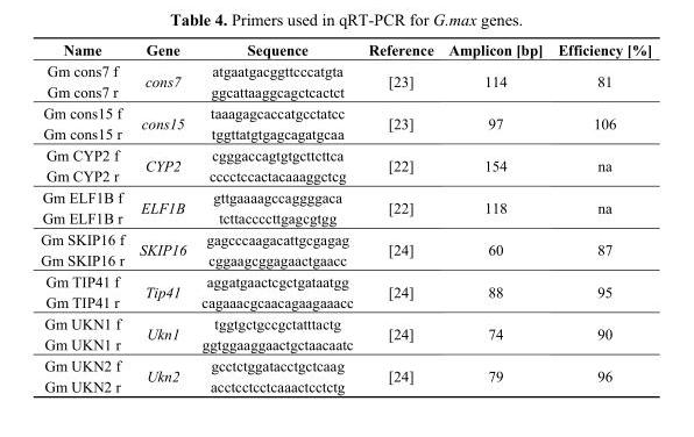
<table><thead><tr><td>Name</td><td>Gene</td><td>Sequence</td><td>Reference</td><td>Amplicon [bp]</td><td>Efficiency [%]</td></tr></thead><tbody><tr><td>Gm cons7 f</td><td rowspan="2">cons7</td><td>atgaatgacggttcccatgta</td><td rowspan="2">[23]</td><td rowspan="2">114</td><td rowspan="2">81</td></tr><tr><td>Gm cons7 r</td><td>ggcattaaggcagctcactct</td></tr><tr><td>Gm cons15 f</td><td rowspan="2">cons15</td><td>taaagagcaccatgcctatcc</td><td rowspan="2">[23]</td><td rowspan="2">97</td><td rowspan="2">106</td></tr><tr><td>Gm cons15 r</td><td>tggttatgtgagcagatgcaa</td></tr><tr><td>Gm CYP2 f</td><td rowspan="2">CYP2</td><td>cgggaccagtgtgcttcttca</td><td rowspan="2">[22]</td><td rowspan="2">154</td><td rowspan="2">na</td></tr><tr><td>Gm CYP2 r</td><td>cccctccactacaaaggctcg</td></tr><tr><td>Gm ELF1B f</td><td rowspan="2">ELF1B</td><td>gttgaaaagccaggggaca</td><td rowspan="2">[22]</td><td rowspan="2">118</td><td rowspan="2">na</td></tr><tr><td>Gm ELF1B r</td><td>tcttaccccttgagcgtgg</td></tr><tr><td>Gm SKIP16 f</td><td rowspan="2">SKIP16</td><td>gagcccaagacattgcgagag</td><td rowspan="2">[24]</td><td rowspan="2">60</td><td rowspan="2">87</td></tr><tr><td>Gm SKIP16 r</td><td>cggaagcggagaactgaacc</td></tr><tr><td>Gm TIP41 f</td><td rowspan="2">Tip41</td><td>aggatgaactcgctgataatgg</td><td rowspan="2">[24]</td><td rowspan="2">88</td><td rowspan="2">95</td></tr><tr><td>Gm TIP41 r</td><td>cagaaacgcaacagaagaaacc</td></tr><tr><td>Gm UKN1 f</td><td rowspan="2">Ukn1</td><td>tggtgctgccgctatttactg</td><td rowspan="2">[24]</td><td rowspan="2">74</td><td rowspan="2">90</td></tr><tr><td>Gm UKN1 r</td><td>ggtggaaggaactgctaacaatc</td></tr><tr><td>Gm UKN2 f</td><td rowspan="2">Ukn2</td><td>gcctctggatacctgctcaag</td><td rowspan="2">[24]</td><td rowspan="2">79</td><td rowspan="2">96</td></tr><tr><td>Gm UKN2 r</td><td>acctcctcctcaaactcctctg</td></tr></tbody></table>